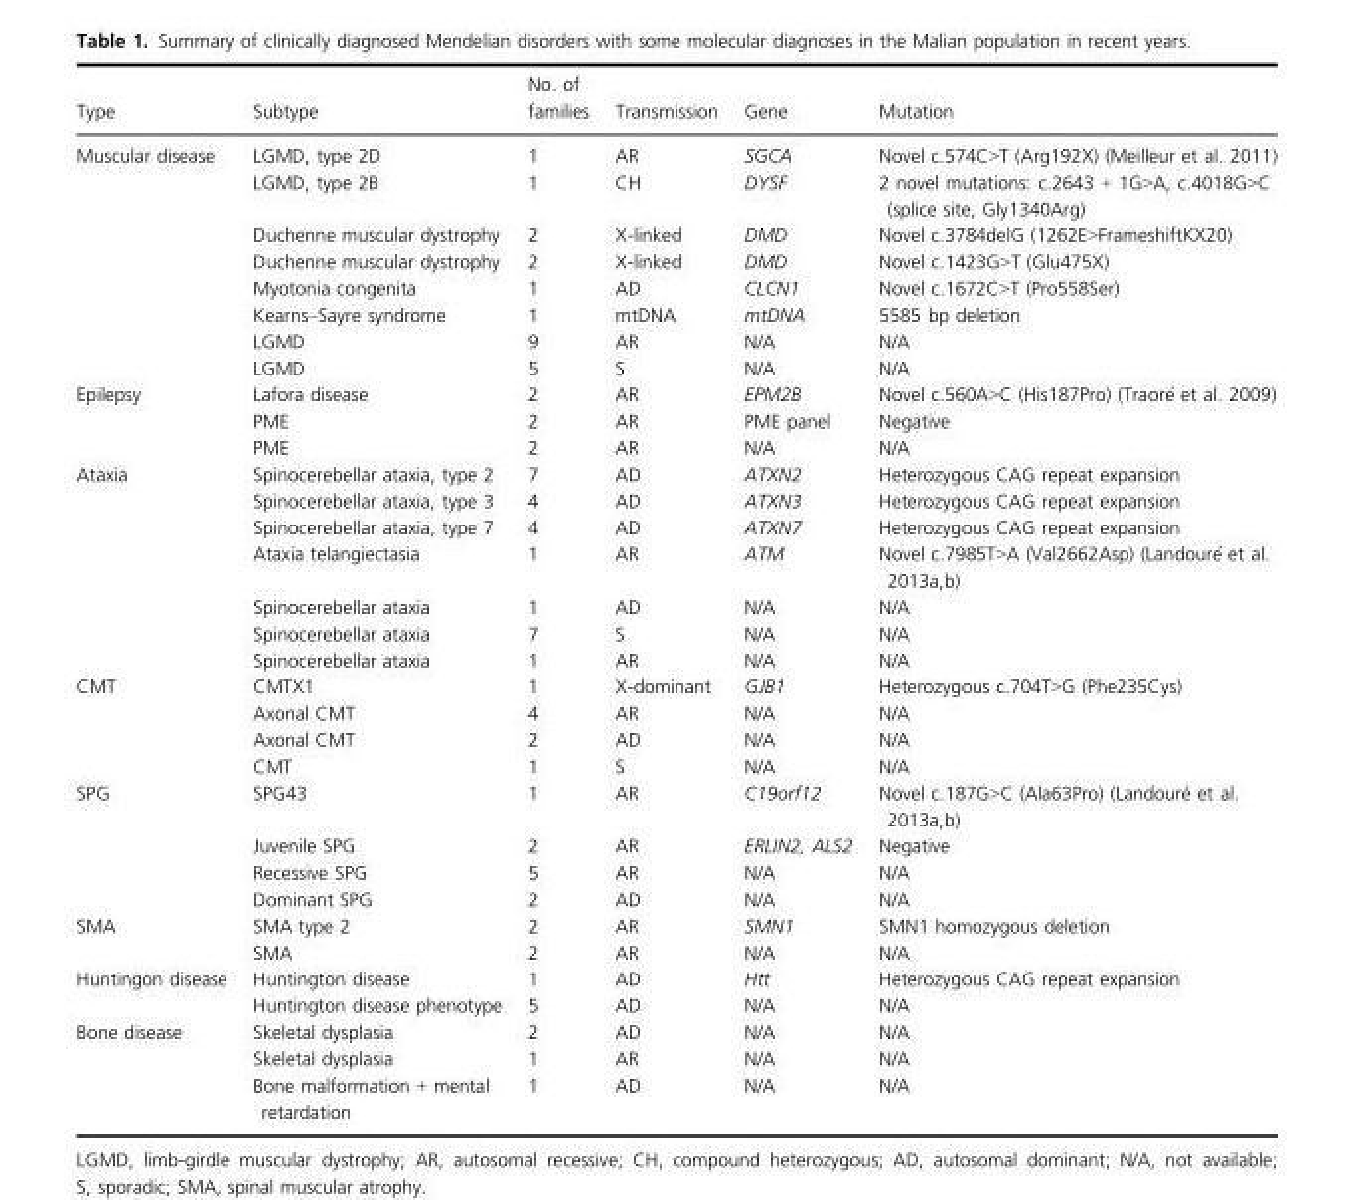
<table><thead><tr><td>Type</td><td>Subtype</td><td>No. of families</td><td>Transmission</td><td>Gene</td><td>Mutation</td></tr></thead><tbody><tr><td rowspan="8">Muscular disease</td><td>LGMD, type 2D</td><td>1</td><td>AR</td><td>SGCA</td><td>Novel c.574C&gt;T (Arg192X) (Meilleur et al. 2011)</td></tr><tr><td>LGMD, type 2B</td><td>1</td><td>CH</td><td>DYSF</td><td>2 novel mutations: c.2643 + 1G&gt;A, c.4018G&gt;C (splice site, Gly1340Arg)</td></tr><tr><td>Duchenne muscular dystrophy</td><td>2</td><td>X-linked</td><td>DMD</td><td>Novel c.3784delG (1262E&gt;FrameshiftKX20)</td></tr><tr><td>Duchenne muscular dystrophy</td><td>2</td><td>X-linked</td><td>DMD</td><td>Novel c.1423G&gt;T (Glu475X)</td></tr><tr><td>Myotonia congenita</td><td>1</td><td>AD</td><td>CLCN1</td><td>Novel c.1672C&gt;T (Pro558Ser)</td></tr><tr><td>Kearns–Sayre syndrome</td><td>1</td><td>mtDNA</td><td>mtDNA</td><td>5585 bp deletion</td></tr><tr><td>LGMD</td><td>9</td><td>AR</td><td>N/A</td><td>N/A</td></tr><tr><td>LGMD</td><td>5</td><td>S</td><td>N/A</td><td>N/A</td></tr><tr><td rowspan="3">Epilepsy</td><td>Lafora disease</td><td>2</td><td>AR</td><td>EPM2B</td><td>Novel c.560A&gt;C (His187Pro) (Traor�e et al. 2009)</td></tr><tr><td>PME</td><td>2</td><td>AR</td><td>PME panel</td><td>Negative</td></tr><tr><td>PME</td><td>2</td><td>AR</td><td>N/A</td><td>N/A</td></tr><tr><td rowspan="7">Ataxia</td><td>Spinocerebellar ataxia, type 2</td><td>7</td><td>AD</td><td>ATXN2</td><td>Heterozygous CAG repeat expansion</td></tr><tr><td>Spinocerebellar ataxia, type 3</td><td>4</td><td>AD</td><td>ATXN3</td><td>Heterozygous CAG repeat expansion</td></tr><tr><td>Spinocerebellar ataxia, type 7</td><td>4</td><td>AD</td><td>ATXN7</td><td>Heterozygous CAG repeat expansion</td></tr><tr><td>Ataxia telangiectasia</td><td>1</td><td>AR</td><td>ATM</td><td>Novel c.7985T&gt;A (Val2662Asp) (Landour�e et al. 2013a,b)</td></tr><tr><td>Spinocerebellar ataxia</td><td>1</td><td>AD</td><td>N/A</td><td>N/A</td></tr><tr><td>Spinocerebellar ataxia</td><td>7</td><td>S</td><td>N/A</td><td>N/A</td></tr><tr><td>Spinocerebellar ataxia</td><td>1</td><td>AR</td><td>N/A</td><td>N/A</td></tr><tr><td rowspan="4">CMT</td><td>CMTX1</td><td>1</td><td>X-dominant</td><td>GJB1</td><td>Heterozygous c.704T&gt;G (Phe235Cys)</td></tr><tr><td>Axonal CMT</td><td>4</td><td>AR</td><td>N/A</td><td>N/A</td></tr><tr><td>Axonal CMT</td><td>2</td><td>AD</td><td>N/A</td><td>N/A</td></tr><tr><td>CMT</td><td>1</td><td>S</td><td>N/A</td><td>N/A</td></tr><tr><td rowspan="4">SPG</td><td>SPG43</td><td>1</td><td>AR</td><td>C19orf12</td><td>Novel c.187G&gt;C (Ala63Pro) (Landoure´ et al. 2013a,b)</td></tr><tr><td>Juvenile SPG</td><td>2</td><td>AR</td><td>ERLIN2, ALS2</td><td>Negative</td></tr><tr><td>Recessive SPG</td><td>5</td><td>AR</td><td>N/A</td><td>N/A</td></tr><tr><td>Dominant SPG</td><td>2</td><td>AD</td><td>N/A</td><td>N/A</td></tr><tr><td rowspan="2">SMA</td><td>SMA type 2</td><td>2</td><td>AR</td><td>SMN1</td><td>SMN1 homozygous deletion</td></tr><tr><td>SMA</td><td>2</td><td>AR</td><td>N/A</td><td>N/A</td></tr><tr><td rowspan="2">Huntingon disease</td><td>Huntington disease</td><td>1</td><td>AD</td><td>Htt</td><td>Heterozygous CAG repeat expansion</td></tr><tr><td>Huntington disease phenotype</td><td>5</td><td>AD</td><td>N/A</td><td>N/A</td></tr><tr><td rowspan="3">Bone disease</td><td>Skeletal dysplasia</td><td>2</td><td>AD</td><td>N/A</td><td>N/A</td></tr><tr><td>Skeletal dysplasia</td><td>1</td><td>AR</td><td>N/A</td><td>N/A</td></tr><tr><td>Bone malformation + mental retardation</td><td>1</td><td>AD</td><td>N/A</td><td>N/A</td></tr></tbody></table>